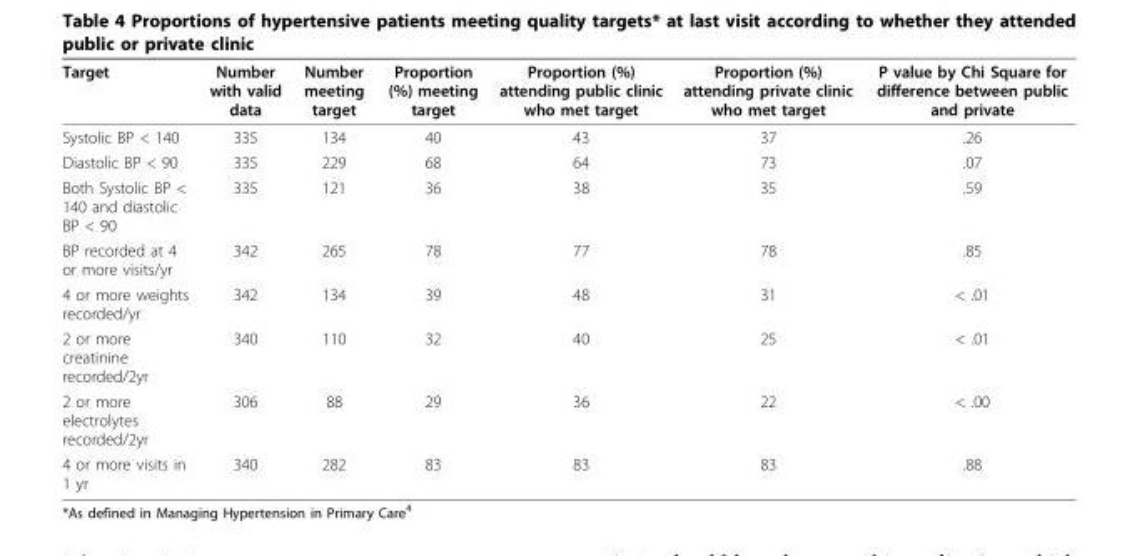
<table><thead><tr><td>Target</td><td>Number with valid data</td><td>Number meeting target</td><td>Proportion (%) meeting target</td><td>Proportion (%) attending public clinic who met target</td><td>Proportion (%) attending private clinic who met target</td><td>P value by Chi Square for difference between public and private</td></tr></thead><tbody><tr><td>Systolic BP &lt; 140</td><td>335</td><td>134</td><td>40</td><td>43</td><td>37</td><td>.26</td></tr><tr><td>Diastolic BP &lt; 90</td><td>335</td><td>229</td><td>68</td><td>64</td><td>73</td><td>.07</td></tr><tr><td>Both Systolic BP &lt; 140 and diastolic BP &lt; 90</td><td>335</td><td>121</td><td>36</td><td>38</td><td>35</td><td>.59</td></tr><tr><td>BP recorded at 4 or more visits/yr</td><td>342</td><td>265</td><td>78</td><td>77</td><td>78</td><td>.85</td></tr><tr><td>4 or more weights recorded/yr</td><td>342</td><td>134</td><td>39</td><td>48</td><td>31</td><td>&lt; .01</td></tr><tr><td>2 or more creatinine recorded/2yr</td><td>340</td><td>110</td><td>32</td><td>40</td><td>25</td><td>&lt; .01</td></tr><tr><td>2 or more electrolytes recorded/2yr</td><td>306</td><td>88</td><td>29</td><td>36</td><td>22</td><td>&lt; .00</td></tr><tr><td>4 or more visits in 1 yr</td><td>340</td><td>282</td><td>83</td><td>83</td><td>83</td><td>.88</td></tr></tbody></table>